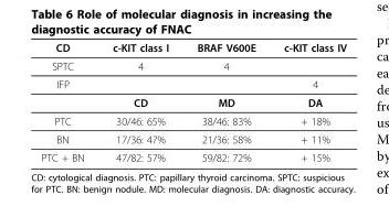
<table><thead><tr><td>CD</td><td>c-KIT class I</td><td>BRAF V600E</td><td>c-KIT class IV</td></tr></thead><tbody><tr><td>SPTC</td><td>4</td><td>4</td><td></td></tr><tr><td rowspan="2">IFP</td><td></td><td></td><td>4</td></tr><tr><td>CD</td><td>MD</td><td>DA</td></tr><tr><td>PTC</td><td>30/46: 65%</td><td>38/46: 83%</td><td>+ 18%</td></tr><tr><td>BN</td><td>17/36: 47%</td><td>21/36: 58%</td><td>+ 11%</td></tr><tr><td>PTC + BN</td><td>47/82: 57%</td><td>59/82: 72%</td><td>+ 15%</td></tr></tbody></table>